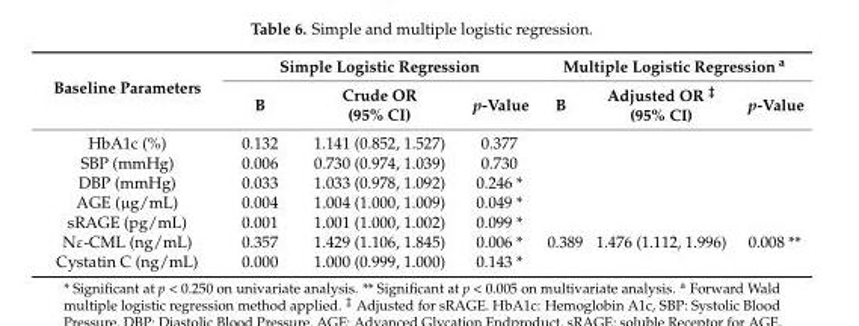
<table><thead><tr><td rowspan="2">Baseline Parameters</td><td colspan="3">Simple Logistic Regression</td><td colspan="3">Multiple Logistic Regression <sup>a</sup></td></tr><tr><td>B</td><td>Crude OR (95% CI)</td><td>p-Value</td><td>B</td><td>Adjusted OR <sup>‡</sup> (95% CI)</td><td>p-Value</td></tr></thead><tbody><tr><td>HbA1c (%)</td><td>0.132</td><td>1.141 (0.852, 1.527)</td><td>0.377</td><td></td><td></td><td></td></tr><tr><td>SBP (mmHg)</td><td>0.006</td><td>0.730 (0.974, 1.039)</td><td>0.730</td><td></td><td></td><td></td></tr><tr><td>DBP (mmHg)</td><td>0.033</td><td>1.033 (0.978, 1.092)</td><td>0.246 *</td><td></td><td></td><td></td></tr><tr><td>AGE (µg/mL)</td><td>0.004</td><td>1.004 (1.000, 1.009)</td><td>0.049 *</td><td></td><td></td><td></td></tr><tr><td>sRAGE (pg/mL)</td><td>0.001</td><td>1.001 (1.000, 1.002)</td><td>0.099 *</td><td></td><td></td><td></td></tr><tr><td>Nε-CML (ng/mL)</td><td>0.357</td><td>1.429 (1.106, 1.845)</td><td>0.006 *</td><td>0.389</td><td>1.476 (1.112, 1.996)</td><td>0.008 **</td></tr><tr><td>Cystatin C (ng/mL)</td><td>0.000</td><td>1.000 (0.999, 1.000)</td><td>0.143 *</td><td></td><td></td><td></td></tr></tbody></table>